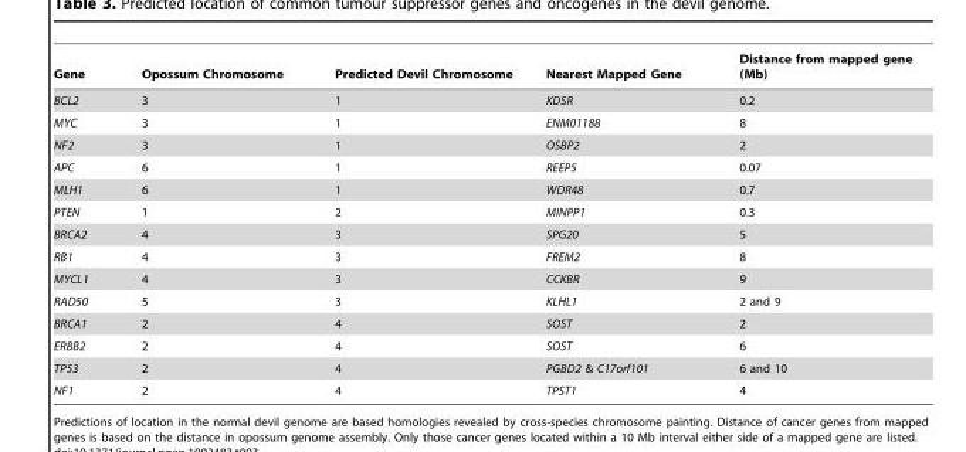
<table><thead><tr><td>Gene</td><td>Opossum Chromosome</td><td>Predicted Devil Chromosome</td><td>Nearest Mapped Gene</td><td>Distance from mapped gene (Mb)</td></tr></thead><tbody><tr><td>BCL2</td><td>3</td><td>1</td><td>KDSR</td><td>0.2</td></tr><tr><td>MYC</td><td>3</td><td>1</td><td>ENM01188</td><td>8</td></tr><tr><td>NF2</td><td>3</td><td>1</td><td>OSBP2</td><td>2</td></tr><tr><td>APC</td><td>6</td><td>1</td><td>REEP5</td><td>0.07</td></tr><tr><td>MLH1</td><td>6</td><td>1</td><td>WDR48</td><td>0.7</td></tr><tr><td>PTEN</td><td>1</td><td>2</td><td>MINPP1</td><td>0.3</td></tr><tr><td>BRCA2</td><td>4</td><td>3</td><td>SPG20</td><td>5</td></tr><tr><td>RB1</td><td>4</td><td>3</td><td>FREM2</td><td>8</td></tr><tr><td>MYCL1</td><td>4</td><td>3</td><td>CCKBR</td><td>9</td></tr><tr><td>RAD50</td><td>5</td><td>3</td><td>KLHL1</td><td>2 and 9</td></tr><tr><td>BRCA1</td><td>2</td><td>4</td><td>SOST</td><td>2</td></tr><tr><td>ERBB2</td><td>2</td><td>4</td><td>SOST</td><td>6</td></tr><tr><td>TP53</td><td>2</td><td>4</td><td>PGBD2 &amp; C17orf101</td><td>6 and 10</td></tr><tr><td>NF1</td><td>2</td><td>4</td><td>TPST1</td><td>4</td></tr></tbody></table>